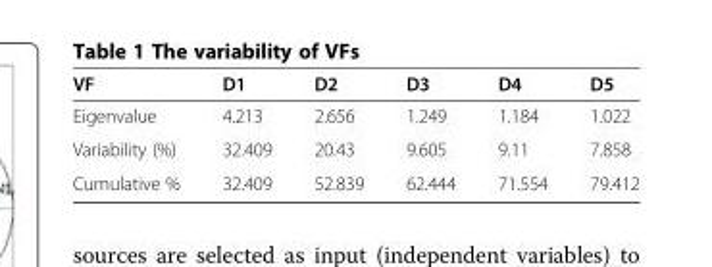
<table><thead><tr><td>VF</td><td>D1</td><td>D2</td><td>D3</td><td>D4</td><td>D5</td></tr></thead><tbody><tr><td>Eigenvalue</td><td>4.213</td><td>2.656</td><td>1.249</td><td>1.184</td><td>1.022</td></tr><tr><td>Variability (%)</td><td>32.409</td><td>20.43</td><td>9.605</td><td>9.11</td><td>7.858</td></tr><tr><td>Cumulative %</td><td>32.409</td><td>52.839</td><td>62.444</td><td>71.554</td><td>79.412</td></tr></tbody></table>